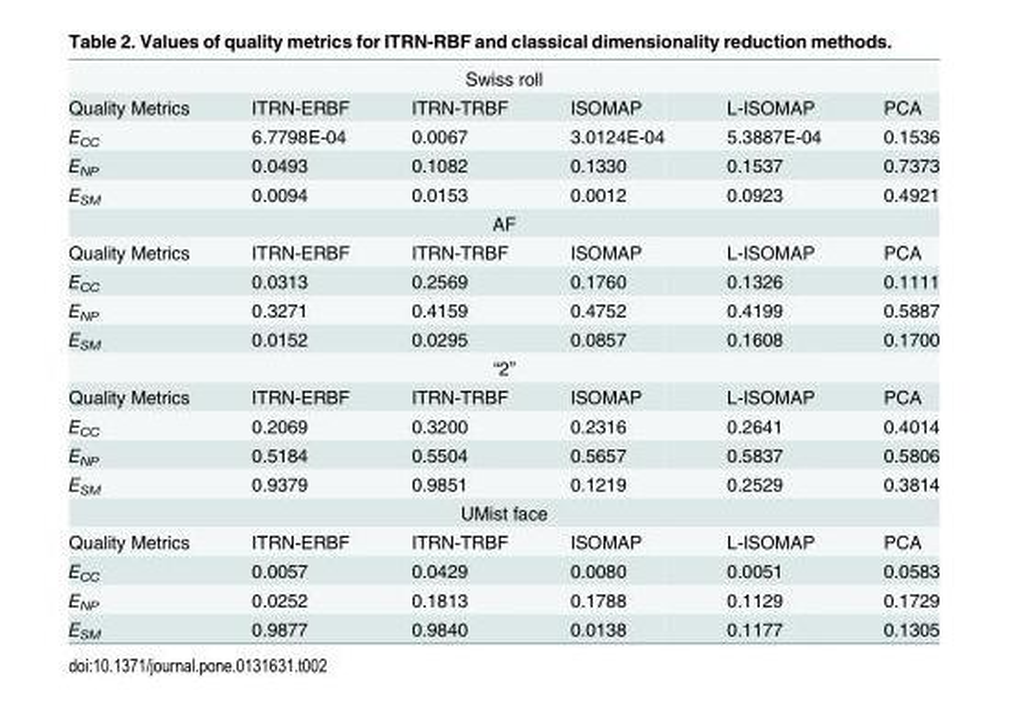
<table><tbody><tr><td colspan="6">Swiss roll</td></tr><tr><td>Quality Metrics</td><td>ITRN-ERBF</td><td>ITRN-TRBF</td><td>ISOMAP</td><td>L-ISOMAP</td><td>PCA</td></tr><tr><td>E<sub>CC</sub></td><td>6.7798E-04</td><td>0.0067</td><td>3.0124E-04</td><td>5.3887E-04</td><td>0.1536</td></tr><tr><td>E<sub>NP</sub></td><td>0.0493</td><td>0.1082</td><td>0.1330</td><td>0.1537</td><td>0.7373</td></tr><tr><td>E<sub>SM</sub></td><td>0.0094</td><td>0.0153</td><td>0.0012</td><td>0.0923</td><td>0.4921</td></tr><tr><td colspan="6">AF</td></tr><tr><td>Quality Metrics</td><td>ITRN-ERBF</td><td>ITRN-TRBF</td><td>ISOMAP</td><td>L-ISOMAP</td><td>PCA</td></tr><tr><td>E<sub>CC</sub></td><td>0.0313</td><td>0.2569</td><td>0.1760</td><td>0.1326</td><td>0.1111</td></tr><tr><td>E<sub>NP</sub></td><td>0.3271</td><td>0.4159</td><td>0.4752</td><td>0.4199</td><td>0.5887</td></tr><tr><td>E<sub>SM</sub></td><td>0.0152</td><td>0.0295</td><td>0.0857</td><td>0.1608</td><td>0.1700</td></tr><tr><td colspan="6">“2”</td></tr><tr><td>Quality Metrics</td><td>ITRN-ERBF</td><td>ITRN-TRBF</td><td>ISOMAP</td><td>L-ISOMAP</td><td>PCA</td></tr><tr><td>E<sub>CC</sub></td><td>0.2069</td><td>0.3200</td><td>0.2316</td><td>0.2641</td><td>0.4014</td></tr><tr><td>E<sub>NP</sub></td><td>0.5184</td><td>0.5504</td><td>0.5657</td><td>0.5837</td><td>0.5806</td></tr><tr><td>E<sub>SM</sub></td><td>0.9379</td><td>0.9851</td><td>0.1219</td><td>0.2529</td><td>0.3814</td></tr><tr><td colspan="6">UMist face</td></tr><tr><td>Quality Metrics</td><td>ITRN-ERBF</td><td>ITRN-TRBF</td><td>ISOMAP</td><td>L-ISOMAP</td><td>PCA</td></tr><tr><td>E<sub>CC</sub></td><td>0.0057</td><td>0.0429</td><td>0.0080</td><td>0.0051</td><td>0.0583</td></tr><tr><td>E<sub>NP</sub></td><td>0.0252</td><td>0.1813</td><td>0.1788</td><td>0.1129</td><td>0.1729</td></tr><tr><td>E<sub>SM</sub></td><td>0.9877</td><td>0.9840</td><td>0.0138</td><td>0.1177</td><td>0.1305</td></tr></tbody></table>